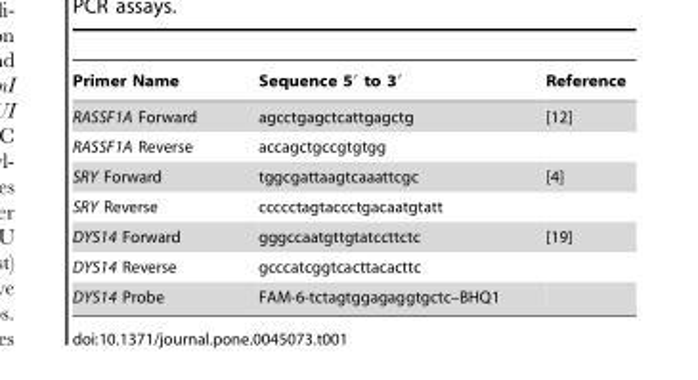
<table><thead><tr><td>Primer Name</td><td>Sequence 5′ to 3′</td><td>Reference</td></tr></thead><tbody><tr><td>RASSF1A Forward</td><td>agcctgagctcattgagctg</td><td>[12]</td></tr><tr><td>RASSF1A Reverse</td><td>accagctgccgtgtgg</td><td></td></tr><tr><td>SRY Forward</td><td>tggcgattaagtcaaattcgc</td><td>[4]</td></tr><tr><td>SRY Reverse</td><td>ccccctagtaccctgacaatgtatt</td><td></td></tr><tr><td>DYS14 Forward</td><td>gggccaatgttgtatccttctc</td><td>[19]</td></tr><tr><td>DYS14 Reverse</td><td>gcccatcggtcacttacacttc</td><td></td></tr><tr><td>DYS14 Probe</td><td>FAM-6-tctagtggagaggtgctc–BHQ1</td><td></td></tr></tbody></table>